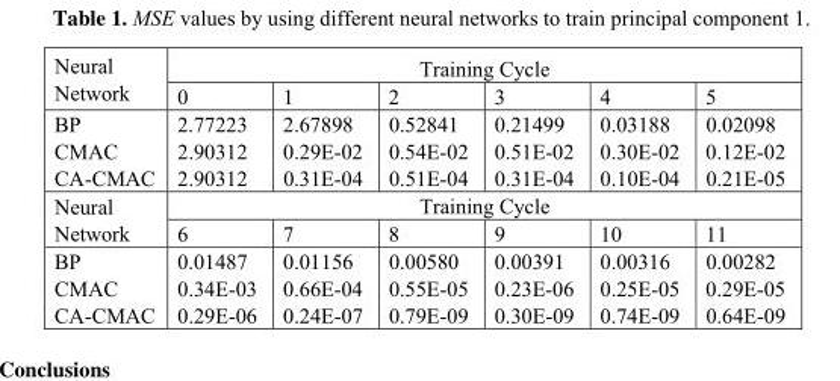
<table><tbody><tr><td rowspan="2">Neural Network</td><td colspan="6">Training Cycle</td></tr><tr><td>0</td><td>1</td><td>2</td><td>3</td><td>4</td><td>5</td></tr><tr><td>BP</td><td>2.77223</td><td>2.67898</td><td>0.52841</td><td>0.21499</td><td>0.03188</td><td>0.02098</td></tr><tr><td>CMAC</td><td>2.90312</td><td>0.29E-02</td><td>0.54E-02</td><td>0.51E-02</td><td>0.30E-02</td><td>0.12E-02</td></tr><tr><td>CA-CMAC</td><td>2.90312</td><td>0.31E-04</td><td>0.51E-04</td><td>0.31E-04</td><td>0.10E-04</td><td>0.21E-05</td></tr><tr><td rowspan="2">Neural Network</td><td colspan="6">Training Cycle</td></tr><tr><td>6</td><td>7</td><td>8</td><td>9</td><td>10</td><td>11</td></tr><tr><td>BP</td><td>0.01487</td><td>0.01156</td><td>0.00580</td><td>0.00391</td><td>0.00316</td><td>0.00282</td></tr><tr><td>CMAC</td><td>0.34E-03</td><td>0.66E-04</td><td>0.55E-05</td><td>0.23E-06</td><td>0.25E-05</td><td>0.29E-05</td></tr><tr><td>CA-CMAC</td><td>0.29E-06</td><td>0.24E-07</td><td>0.79E-09</td><td>0.30E-09</td><td>0.74E-09</td><td>0.64E-09</td></tr></tbody></table>